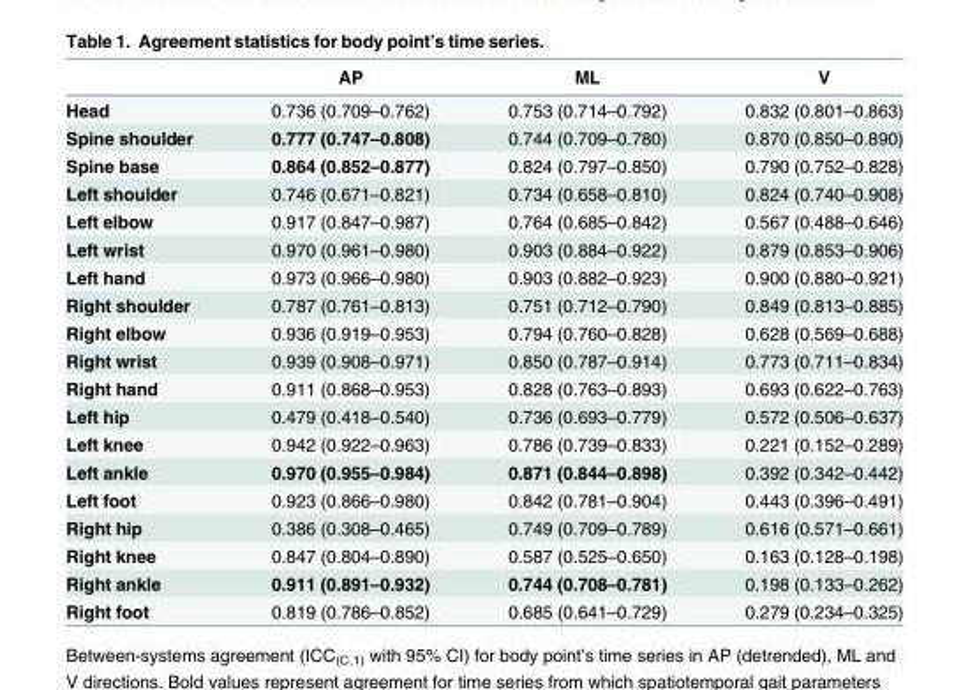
<table><thead><tr><td></td><td>AP</td><td>ML</td><td>V</td></tr></thead><tbody><tr><td>Head</td><td>0.736 (0.709–0.762)</td><td>0.753 (0.714–0.792)</td><td>0.832 (0.801–0.863)</td></tr><tr><td>Spine shoulder</td><td>0.777 (0.747–0.808)</td><td>0.744 (0.709–0.780)</td><td>0.870 (0.850–0.890)</td></tr><tr><td>Spine base</td><td>0.864 (0.852–0.877)</td><td>0.824 (0.797–0.850)</td><td>0.790 (0.752–0.828)</td></tr><tr><td>Left shoulder</td><td>0.746 (0.671–0.821)</td><td>0.734 (0.658–0.810)</td><td>0.824 (0.740–0.908)</td></tr><tr><td>Left elbow</td><td>0.917 (0.847–0.987)</td><td>0.764 (0.685–0.842)</td><td>0.567 (0.488–0.646)</td></tr><tr><td>Left wrist</td><td>0.970 (0.961–0.980)</td><td>0.903 (0.884–0.922)</td><td>0.879 (0.853–0.906)</td></tr><tr><td>Left hand</td><td>0.973 (0.966–0.980)</td><td>0.903 (0.882–0.923)</td><td>0.900 (0.880–0.921)</td></tr><tr><td>Right shoulder</td><td>0.787 (0.761–0.813)</td><td>0.751 (0.712–0.790)</td><td>0.849 (0.813–0.885)</td></tr><tr><td>Right elbow</td><td>0.936 (0.919–0.953)</td><td>0.794 (0.760–0.828)</td><td>0.628 (0.569–0.688)</td></tr><tr><td>Right wrist</td><td>0.939 (0.908–0.971)</td><td>0.850 (0.787–0.914)</td><td>0.773 (0.711–0.834)</td></tr><tr><td>Right hand</td><td>0.911 (0.868–0.953)</td><td>0.828 (0.763–0.893)</td><td>0.693 (0.622–0.763)</td></tr><tr><td>Left hip</td><td>0.479 (0.418–0.540)</td><td>0.736 (0.693–0.779)</td><td>0.572 (0.506–0.637)</td></tr><tr><td>Left knee</td><td>0.942 (0.922–0.963)</td><td>0.786 (0.739–0.833)</td><td>0.221 (0.152–0.289)</td></tr><tr><td>Left ankle</td><td>0.970 (0.955–0.984)</td><td>0.871 (0.844–0.898)</td><td>0.392 (0.342–0.442)</td></tr><tr><td>Left foot</td><td>0.923 (0.866–0.980)</td><td>0.842 (0.781–0.904)</td><td>0.443 (0.396–0.491)</td></tr><tr><td>Right hip</td><td>0.386 (0.308–0.465)</td><td>0.749 (0.709–0.789)</td><td>0.616 (0.571–0.661)</td></tr><tr><td>Right knee</td><td>0.847 (0.804–0.890)</td><td>0.587 (0.525–0.650)</td><td>0.163 (0.128–0.198)</td></tr><tr><td>Right ankle</td><td>0.911 (0.891–0.932)</td><td>0.744 (0.708–0.781)</td><td>0.198 (0.133–0.262)</td></tr><tr><td>Right foot</td><td>0.819 (0.786–0.852)</td><td>0.685 (0.641–0.729)</td><td>0.279 (0.234–0.325)</td></tr></tbody></table>